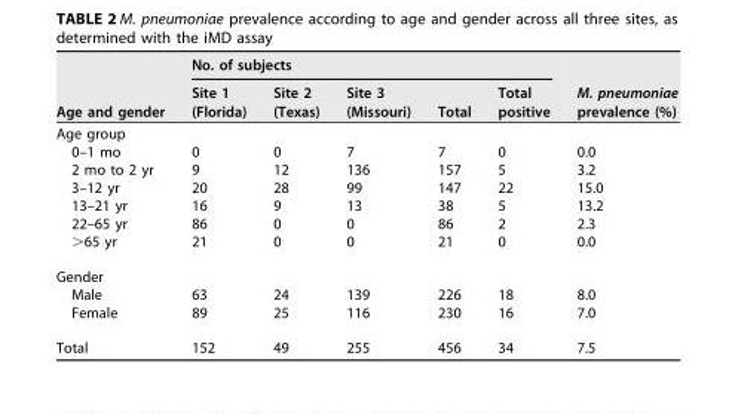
<table><thead><tr><td rowspan="2">Age and gender</td><td colspan="5">No. of subjects</td><td rowspan="2">M. pneumoniae prevalence (%)</td></tr><tr><td>Site 1 (Florida)</td><td>Site 2 (Texas)</td><td>Site 3 (Missouri)</td><td>Total</td><td>Total positive</td></tr></thead><tbody><tr><td colspan="7">Age group</td></tr><tr><td>0–1 mo</td><td>0</td><td>0</td><td>7</td><td>7</td><td>0</td><td>0.0</td></tr><tr><td>2 mo to 2 yr</td><td>9</td><td>12</td><td>136</td><td>157</td><td>5</td><td>3.2</td></tr><tr><td>3–12 yr</td><td>20</td><td>28</td><td>99</td><td>147</td><td>22</td><td>15.0</td></tr><tr><td>13–21 yr</td><td>16</td><td>9</td><td>13</td><td>38</td><td>5</td><td>13.2</td></tr><tr><td>22–65 yr</td><td>86</td><td>0</td><td>0</td><td>86</td><td>2</td><td>2.3</td></tr><tr><td>&gt;65 yr</td><td>21</td><td>0</td><td>0</td><td>21</td><td>0</td><td>0.0</td></tr><tr><td colspan="7">Gender</td></tr><tr><td>Male</td><td>63</td><td>24</td><td>139</td><td>226</td><td>18</td><td>8.0</td></tr><tr><td>Female</td><td>89</td><td>25</td><td>116</td><td>230</td><td>16</td><td>7.0</td></tr><tr><td>Total</td><td>152</td><td>49</td><td>255</td><td>456</td><td>34</td><td>7.5</td></tr></tbody></table>